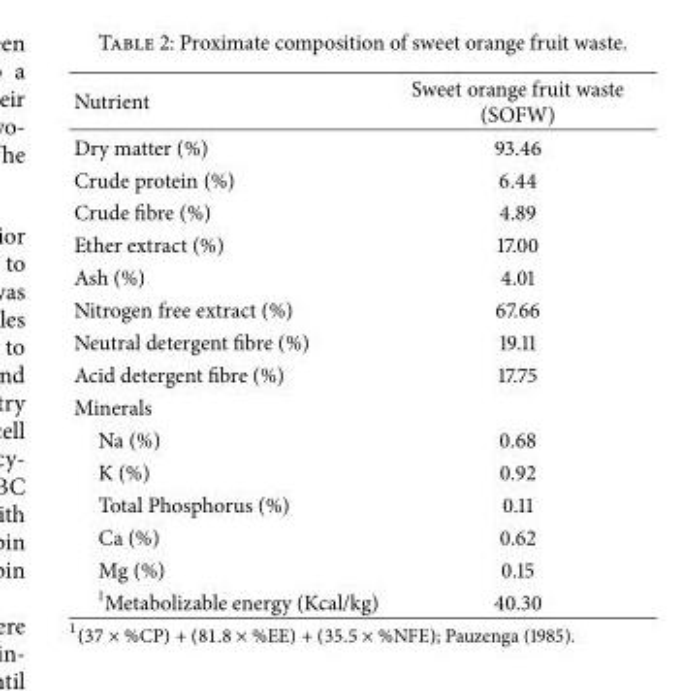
<table><thead><tr><td>Nutrient</td><td>Sweet orange fruit waste (SOFW)</td></tr></thead><tbody><tr><td>Dry matter (%)</td><td>93.46</td></tr><tr><td>Crude protein (%)</td><td>6.44</td></tr><tr><td>Crude fibre (%)</td><td>4.89</td></tr><tr><td>Ether extract (%)</td><td>17.00</td></tr><tr><td>Ash (%)</td><td>4.01</td></tr><tr><td>Nitrogen free extract (%)</td><td>67.66</td></tr><tr><td>Neutral detergent fibre (%)</td><td>19.11</td></tr><tr><td>Acid detergent fibre (%)</td><td>17.75</td></tr><tr><td colspan="2">Minerals</td></tr><tr><td>Na (%)</td><td>0.68</td></tr><tr><td>K (%)</td><td>0.92</td></tr><tr><td>Total Phosphorus (%)</td><td>0.11</td></tr><tr><td>Ca (%)</td><td>0.62</td></tr><tr><td>Mg (%)</td><td>0.15</td></tr><tr><td><sup>1</sup>Metabolizable energy (Kcal/kg)</td><td>40.30</td></tr></tbody></table>